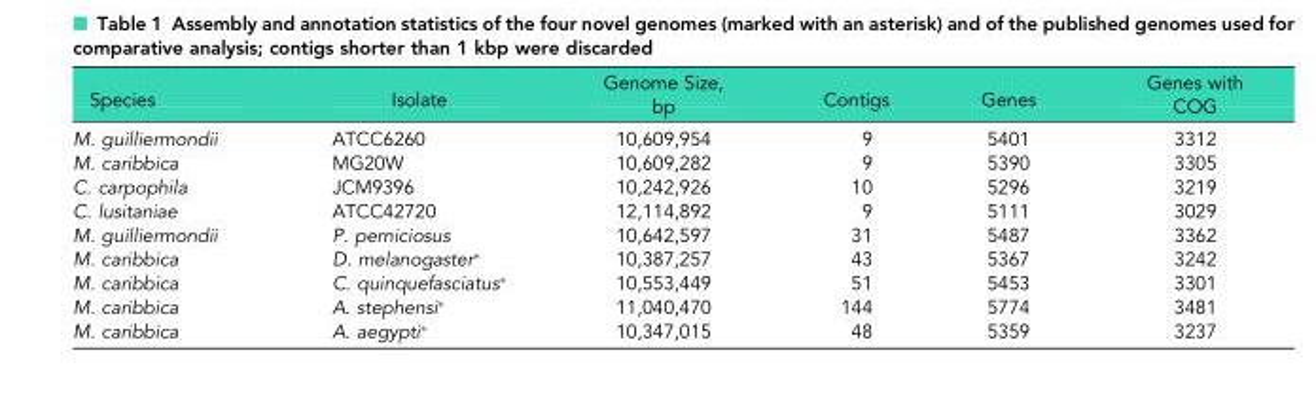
<table><thead><tr><td>Species</td><td>Isolate</td><td>Genome Size, bp</td><td>Contigs</td><td>Genes</td><td>Genes with COG</td></tr></thead><tbody><tr><td>M. guilliermondii</td><td>ATCC6260</td><td>10,609,954</td><td>9</td><td>5401</td><td>3312</td></tr><tr><td>M. caribbica</td><td>MG20W</td><td>10,609,282</td><td>9</td><td>5390</td><td>3305</td></tr><tr><td>C. carpophila</td><td>JCM9396</td><td>10,242,926</td><td>10</td><td>5296</td><td>3219</td></tr><tr><td>C. lusitaniae</td><td>ATCC42720</td><td>12,114,892</td><td>9</td><td>5111</td><td>3029</td></tr><tr><td>M. guilliermondii</td><td>P. perniciosus</td><td>10,642,597</td><td>31</td><td>5487</td><td>3362</td></tr><tr><td>M. caribbica</td><td>D. melanogaster*</td><td>10,387,257</td><td>43</td><td>5367</td><td>3242</td></tr><tr><td>M. caribbica</td><td>C. quinquefasciatus*</td><td>10,553,449</td><td>51</td><td>5453</td><td>3301</td></tr><tr><td>M. caribbica</td><td>A. stephensi*</td><td>11,040,470</td><td>144</td><td>5774</td><td>3481</td></tr><tr><td>M. caribbica</td><td>A. aegypti*</td><td>10,347,015</td><td>48</td><td>5359</td><td>3237</td></tr></tbody></table>